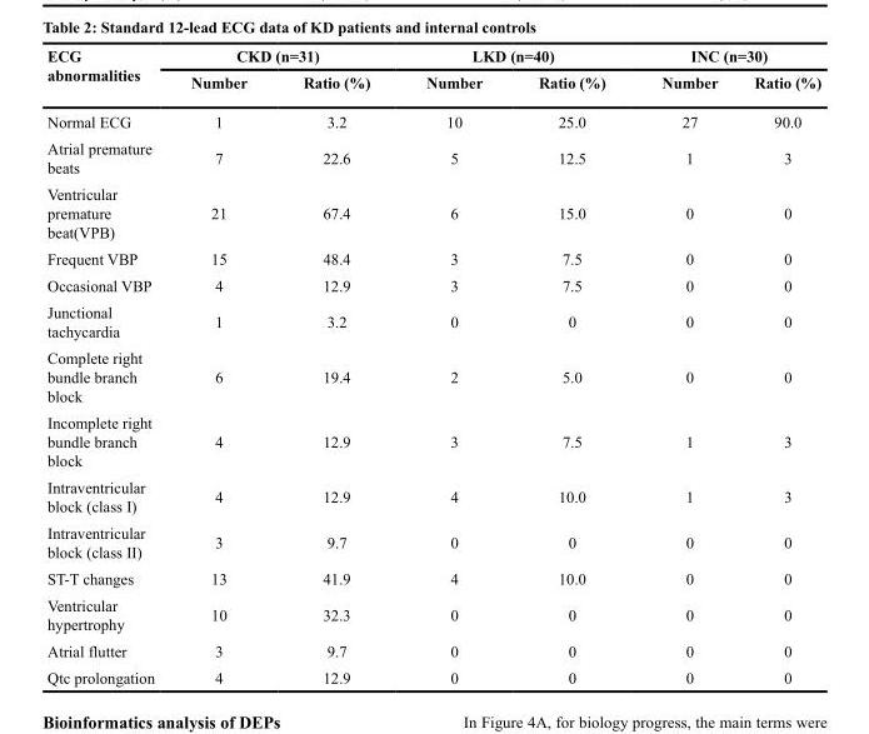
<table><thead><tr><td rowspan="2">ECG abnormalities</td><td colspan="2">CKD (n=31)</td><td colspan="2">LKD (n=40)</td><td colspan="2">INC (n=30)</td></tr><tr><td>Number</td><td>Ratio (%)</td><td>Number</td><td>Ratio (%)</td><td>Number</td><td>Ratio (%)</td></tr></thead><tbody><tr><td>Normal ECG</td><td>1</td><td>3.2</td><td>10</td><td>25.0</td><td>27</td><td>90.0</td></tr><tr><td>Atrial premature beats</td><td>7</td><td>22.6</td><td>5</td><td>12.5</td><td>1</td><td>3</td></tr><tr><td>Ventricular premature beat(VPB)</td><td>21</td><td>67.4</td><td>6</td><td>15.0</td><td>0</td><td>0</td></tr><tr><td>Frequent VBP</td><td>15</td><td>48.4</td><td>3</td><td>7.5</td><td>0</td><td>0</td></tr><tr><td>Occasional VBP</td><td>4</td><td>12.9</td><td>3</td><td>7.5</td><td>0</td><td>0</td></tr><tr><td>Junctional tachycardia</td><td>1</td><td>3.2</td><td>0</td><td>0</td><td>0</td><td>0</td></tr><tr><td>Complete right bundle branch block</td><td>6</td><td>19.4</td><td>2</td><td>5.0</td><td>0</td><td>0</td></tr><tr><td>Incomplete right bundle branch block</td><td>4</td><td>12.9</td><td>3</td><td>7.5</td><td>1</td><td>3</td></tr><tr><td>Intraventricular block (class I)</td><td>4</td><td>12.9</td><td>4</td><td>10.0</td><td>1</td><td>3</td></tr><tr><td>Intraventricular block (class II)</td><td>3</td><td>9.7</td><td>0</td><td>0</td><td>0</td><td>0</td></tr><tr><td>ST-T changes</td><td>13</td><td>41.9</td><td>4</td><td>10.0</td><td>0</td><td>0</td></tr><tr><td>Ventricular hypertrophy</td><td>10</td><td>32.3</td><td>0</td><td>0</td><td>0</td><td>0</td></tr><tr><td>Atrial flutter</td><td>3</td><td>9.7</td><td>0</td><td>0</td><td>0</td><td>0</td></tr><tr><td>Qtc prolongation</td><td>4</td><td>12.9</td><td>0</td><td>0</td><td>0</td><td>0</td></tr></tbody></table>